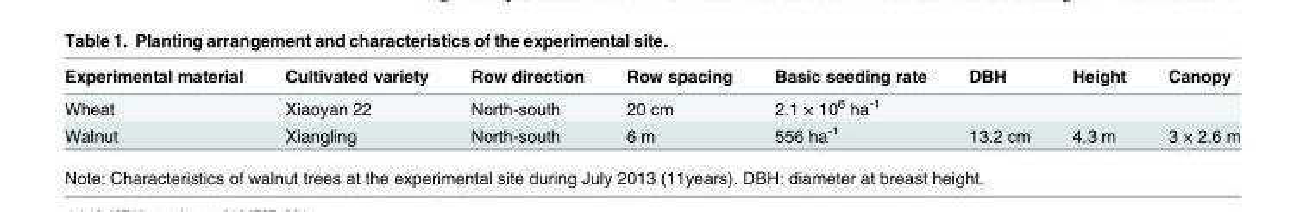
<table><thead><tr><td>Experimental material</td><td>Cultivated variety</td><td>Row direction</td><td>Row spacing</td><td>Basic seeding rate</td><td>DBH</td><td>Height</td><td>Canopy</td></tr></thead><tbody><tr><td>Wheat</td><td>Xiaoyan 22</td><td>North-south</td><td>20 cm</td><td>2.1 × 10<sup>6</sup> ha<sup>-1</sup></td><td></td><td></td><td></td></tr><tr><td>Walnut</td><td>Xiangling</td><td>North-south</td><td>6 m</td><td>556 ha<sup>-1</sup></td><td>13.2 cm</td><td>4.3 m</td><td>3 × 2.6 m</td></tr></tbody></table>